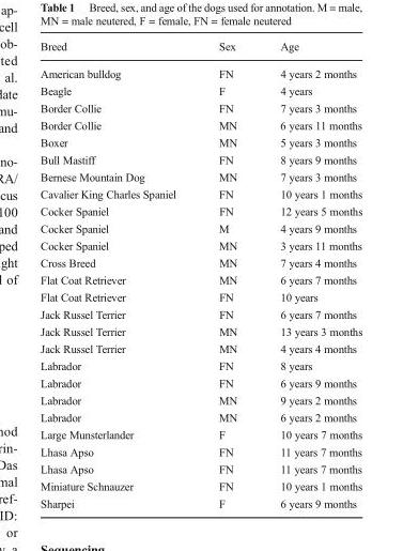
<table><thead><tr><td>Breed</td><td>Sex</td><td>Age</td></tr></thead><tbody><tr><td>American bulldog</td><td>FN</td><td>4 years 2 months</td></tr><tr><td>Beagle</td><td>F</td><td>4 years</td></tr><tr><td>Border Collie</td><td>FN</td><td>7 years 3 months</td></tr><tr><td>Border Collie</td><td>MN</td><td>6 years 11 months</td></tr><tr><td>Boxer</td><td>MN</td><td>5 years 3 months</td></tr><tr><td>Bull Mastiff</td><td>FN</td><td>8 years 9 months</td></tr><tr><td>Bernese Mountain Dog</td><td>MN</td><td>7 years 3 months</td></tr><tr><td>Cavalier King Charles Spaniel</td><td>FN</td><td>10 years 1 months</td></tr><tr><td>Cocker Spaniel</td><td>FN</td><td>12 years 5 months</td></tr><tr><td>Cocker Spaniel</td><td>M</td><td>4 years 9 months</td></tr><tr><td>Cocker Spaniel</td><td>MN</td><td>3 years 11 months</td></tr><tr><td>Cross Breed</td><td>MN</td><td>7 years 4 months</td></tr><tr><td>Flat Coat Retriever</td><td>MN</td><td>6 years 7 months</td></tr><tr><td>Flat Coat Retriever</td><td>FN</td><td>10 years</td></tr><tr><td>Jack Russel Terrier</td><td>FN</td><td>6 years 7 months</td></tr><tr><td>Jack Russel Terrier</td><td>MN</td><td>13 years 3 months</td></tr><tr><td>Jack Russel Terrier</td><td>MN</td><td>4 years 4 months</td></tr><tr><td>Labrador</td><td>FN</td><td>8 years</td></tr><tr><td>Labrador</td><td>FN</td><td>6 years 9 months</td></tr><tr><td>Labrador</td><td>MN</td><td>9 years 2 months</td></tr><tr><td>Labrador</td><td>MN</td><td>6 years 2 months</td></tr><tr><td>Large Munsterlander</td><td>F</td><td>10 years 7 months</td></tr><tr><td>Lhasa Apso</td><td>FN</td><td>11 years 7 months</td></tr><tr><td>Lhasa Apso</td><td>FN</td><td>11 years 7 months</td></tr><tr><td>Miniature Schnauzer</td><td>FN</td><td>10 years 1 months</td></tr><tr><td>Sharpei</td><td>F</td><td>6 years 9 months</td></tr></tbody></table>